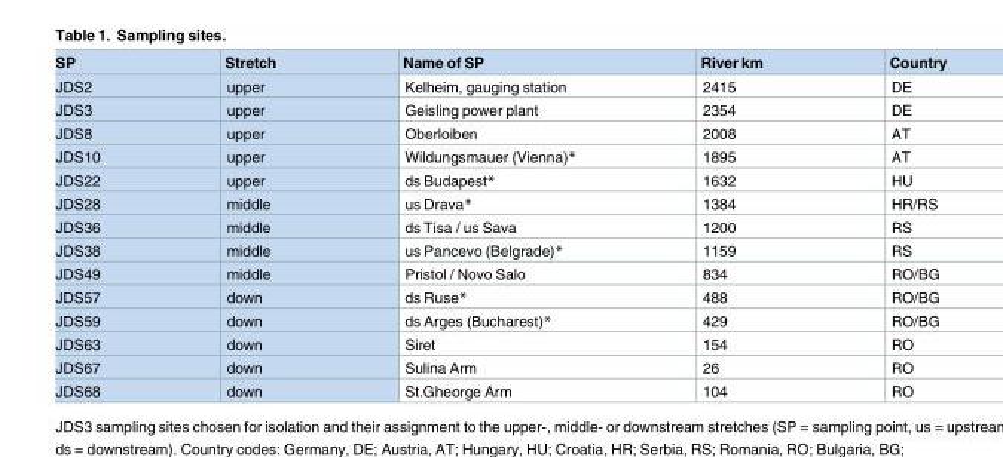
<table><thead><tr><td>SP</td><td>Stretch</td><td>Name of SP</td><td>River km</td><td>Country</td></tr></thead><tbody><tr><td>JDS2</td><td>upper</td><td>Kelheim, gauging station</td><td>2415</td><td>DE</td></tr><tr><td>JDS3</td><td>upper</td><td>Geisling power plant</td><td>2354</td><td>DE</td></tr><tr><td>JDS8</td><td>upper</td><td>Oberloiben</td><td>2008</td><td>AT</td></tr><tr><td>JDS10</td><td>upper</td><td>Wildungsmauer (Vienna)*</td><td>1895</td><td>AT</td></tr><tr><td>JDS22</td><td>upper</td><td>ds Budapest*</td><td>1632</td><td>HU</td></tr><tr><td>JDS28</td><td>middle</td><td>us Drava*</td><td>1384</td><td>HR/RS</td></tr><tr><td>JDS36</td><td>middle</td><td>ds Tisa / us Sava</td><td>1200</td><td>RS</td></tr><tr><td>JDS38</td><td>middle</td><td>us Pancevo (Belgrade)*</td><td>1159</td><td>RS</td></tr><tr><td>JDS49</td><td>middle</td><td>Pristol / Novo Salo</td><td>834</td><td>RO/BG</td></tr><tr><td>JDS57</td><td>down</td><td>ds Ruse*</td><td>488</td><td>RO/BG</td></tr><tr><td>JDS59</td><td>down</td><td>ds Arges (Bucharest)*</td><td>429</td><td>RO/BG</td></tr><tr><td>JDS63</td><td>down</td><td>Siret</td><td>154</td><td>RO</td></tr><tr><td>JDS67</td><td>down</td><td>Sulina Arm</td><td>26</td><td>RO</td></tr><tr><td>JDS68</td><td>down</td><td>St.Gheorge Arm</td><td>104</td><td>RO</td></tr></tbody></table>